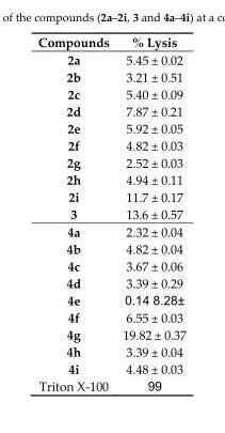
<table><thead><tr><td>Compounds</td><td>% Lysis</td></tr></thead><tbody><tr><td>2a</td><td>5.45 ± 0.02</td></tr><tr><td>2b</td><td>3.21 ± 0.51</td></tr><tr><td>2c</td><td>5.40 ± 0.09</td></tr><tr><td>2d</td><td>7.87 ± 0.21</td></tr><tr><td>2e</td><td>5.92 ± 0.05</td></tr><tr><td>2f</td><td>4.82 ± 0.03</td></tr><tr><td>2g</td><td>2.52 ± 0.03</td></tr><tr><td>2h</td><td>4.94 ± 0.11</td></tr><tr><td>2i</td><td>11.7 ± 0.17</td></tr><tr><td>3</td><td>13.6 ± 0.57</td></tr><tr><td>4a</td><td>2.32 ± 0.04</td></tr><tr><td>4b</td><td>4.82 ± 0.04</td></tr><tr><td>4c</td><td>3.67 ± 0.06</td></tr><tr><td>4d</td><td>3.39 ± 0.29</td></tr><tr><td>4e</td><td>± 8.28 0.14</td></tr><tr><td>4f</td><td>6.55 ± 0.03</td></tr><tr><td>4g</td><td>19.82 ± 0.37</td></tr><tr><td>4h</td><td>3.39 ± 0.04</td></tr><tr><td>4i</td><td>4.48 ± 0.03</td></tr><tr><td>Triton X-100</td><td>99</td></tr></tbody></table>